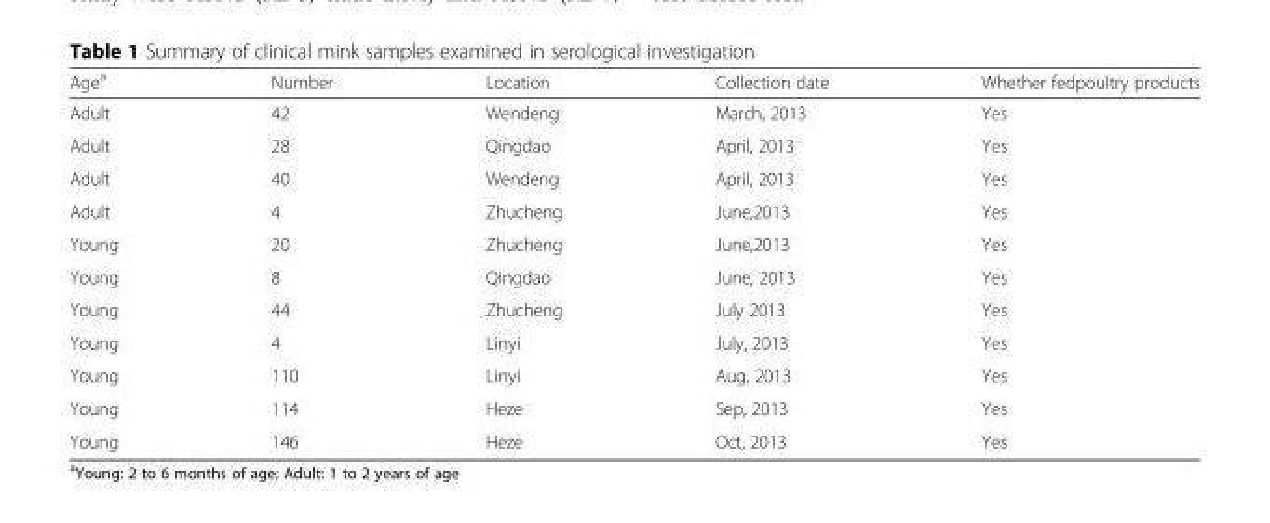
<table><thead><tr><td>Age<sup>a</sup></td><td>Number</td><td>Location</td><td>Collection date</td><td>Whether fedpoultry products</td></tr></thead><tbody><tr><td>Adult</td><td>42</td><td>Wendeng</td><td>March, 2013</td><td>Yes</td></tr><tr><td>Adult</td><td>28</td><td>Qingdao</td><td>April, 2013</td><td>Yes</td></tr><tr><td>Adult</td><td>40</td><td>Wendeng</td><td>April, 2013</td><td>Yes</td></tr><tr><td>Adult</td><td>4</td><td>Zhucheng</td><td>June,2013</td><td>Yes</td></tr><tr><td>Young</td><td>20</td><td>Zhucheng</td><td>June,2013</td><td>Yes</td></tr><tr><td>Young</td><td>8</td><td>Qingdao</td><td>June, 2013</td><td>Yes</td></tr><tr><td>Young</td><td>44</td><td>Zhucheng</td><td>July 2013</td><td>Yes</td></tr><tr><td>Young</td><td>4</td><td>Linyi</td><td>July, 2013</td><td>Yes</td></tr><tr><td>Young</td><td>110</td><td>Linyi</td><td>Aug, 2013</td><td>Yes</td></tr><tr><td>Young</td><td>114</td><td>Heze</td><td>Sep, 2013</td><td>Yes</td></tr><tr><td>Young</td><td>146</td><td>Heze</td><td>Oct, 2013</td><td>Yes</td></tr></tbody></table>